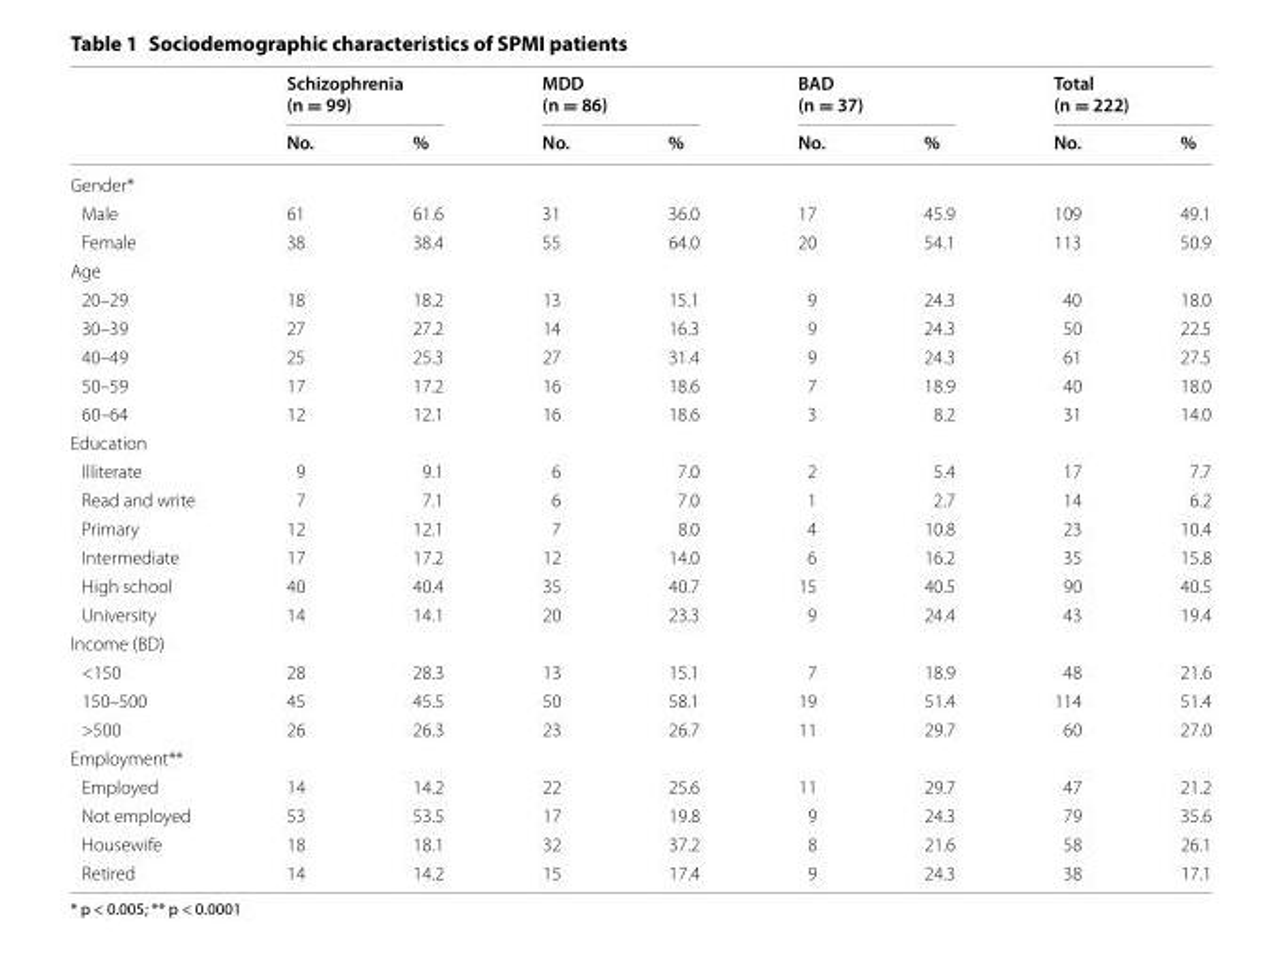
<table><thead><tr><td rowspan="2"></td><td colspan="2">Schizophrenia (n = 99)</td><td colspan="2">MDD (n = 86)</td><td colspan="2">BAD (n = 37)</td><td colspan="2">Total (n = 222)</td></tr><tr><td>No.</td><td>%</td><td>No.</td><td>%</td><td>No.</td><td>%</td><td>No.</td><td>%</td></tr></thead><tbody><tr><td colspan="9">Gender*</td></tr><tr><td>Male</td><td>61</td><td>61.6</td><td>31</td><td>36.0</td><td>17</td><td>45.9</td><td>109</td><td>49.1</td></tr><tr><td>Female</td><td>38</td><td>38.4</td><td>55</td><td>64.0</td><td>20</td><td>54.1</td><td>113</td><td>50.9</td></tr><tr><td colspan="9">Age</td></tr><tr><td>20–29</td><td>18</td><td>18.2</td><td>13</td><td>15.1</td><td>9</td><td>24.3</td><td>40</td><td>18.0</td></tr><tr><td>30–39</td><td>27</td><td>27.2</td><td>14</td><td>16.3</td><td>9</td><td>24.3</td><td>50</td><td>22.5</td></tr><tr><td>40–49</td><td>25</td><td>25.3</td><td>27</td><td>31.4</td><td>9</td><td>24.3</td><td>61</td><td>27.5</td></tr><tr><td>50–59</td><td>17</td><td>17.2</td><td>16</td><td>18.6</td><td>7</td><td>18.9</td><td>40</td><td>18.0</td></tr><tr><td>60–64</td><td>12</td><td>12.1</td><td>16</td><td>18.6</td><td>3</td><td>8.2</td><td>31</td><td>14.0</td></tr><tr><td colspan="9">Education</td></tr><tr><td>Illiterate</td><td>9</td><td>9.1</td><td>6</td><td>7.0</td><td>2</td><td>5.4</td><td>17</td><td>7.7</td></tr><tr><td>Read and write</td><td>7</td><td>7.1</td><td>6</td><td>7.0</td><td>1</td><td>2.7</td><td>14</td><td>6.2</td></tr><tr><td>Primary</td><td>12</td><td>12.1</td><td>7</td><td>8.0</td><td>4</td><td>10.8</td><td>23</td><td>10.4</td></tr><tr><td>Intermediate</td><td>17</td><td>17.2</td><td>12</td><td>14.0</td><td>6</td><td>16.2</td><td>35</td><td>15.8</td></tr><tr><td>High school</td><td>40</td><td>40.4</td><td>35</td><td>40.7</td><td>15</td><td>40.5</td><td>90</td><td>40.5</td></tr><tr><td>University</td><td>14</td><td>14.1</td><td>20</td><td>23.3</td><td>9</td><td>24.4</td><td>43</td><td>19.4</td></tr><tr><td colspan="9">Income (BD)</td></tr><tr><td>&lt;150</td><td>28</td><td>28.3</td><td>13</td><td>15.1</td><td>7</td><td>18.9</td><td>48</td><td>21.6</td></tr><tr><td>150–500</td><td>45</td><td>45.5</td><td>50</td><td>58.1</td><td>19</td><td>51.4</td><td>114</td><td>51.4</td></tr><tr><td>&gt;500</td><td>26</td><td>26.3</td><td>23</td><td>26.7</td><td>11</td><td>29.7</td><td>60</td><td>27.0</td></tr><tr><td colspan="9">Employment**</td></tr><tr><td>Employed</td><td>14</td><td>14.2</td><td>22</td><td>25.6</td><td>11</td><td>29.7</td><td>47</td><td>21.2</td></tr><tr><td>Not employed</td><td>53</td><td>53.5</td><td>17</td><td>19.8</td><td>9</td><td>24.3</td><td>79</td><td>35.6</td></tr><tr><td>Housewife</td><td>18</td><td>18.1</td><td>32</td><td>37.2</td><td>8</td><td>21.6</td><td>58</td><td>26.1</td></tr><tr><td>Retired</td><td>14</td><td>14.2</td><td>15</td><td>17.4</td><td>9</td><td>24.3</td><td>38</td><td>17.1</td></tr></tbody></table>